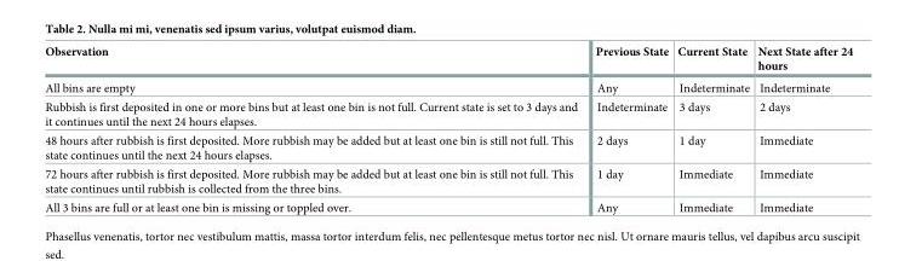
<table><thead><tr><td>Observation</td><td>Previous State</td><td>Current State</td><td>Next State after 24 hours</td></tr></thead><tbody><tr><td>All bins are empty</td><td>Any</td><td>Indeterminate</td><td>Indeterminate</td></tr><tr><td>Rubbish is first deposited in one or more bins but at least one bin is not full. Current state is set to 3 days and it continues until the next 24 hours elapses.</td><td>Indeterminate</td><td>3 days</td><td>2 days</td></tr><tr><td>48 hours after rubbish is first deposited. More rubbish may be added but at least one bin is still not full. This state continues until the next 24 hours elapses.</td><td>2 days</td><td>1 day</td><td>Immediate</td></tr><tr><td>72 hours after rubbish is first deposited. More rubbish may be added but at least one bin is still not full. This state continues until rubbish is collected from the three bins.</td><td>1 day</td><td>Immediate</td><td>Immediate</td></tr><tr><td>All 3 bins are full or at least one bin is missing or toppled over.</td><td>Any</td><td>Immediate</td><td>Immediate</td></tr></tbody></table>